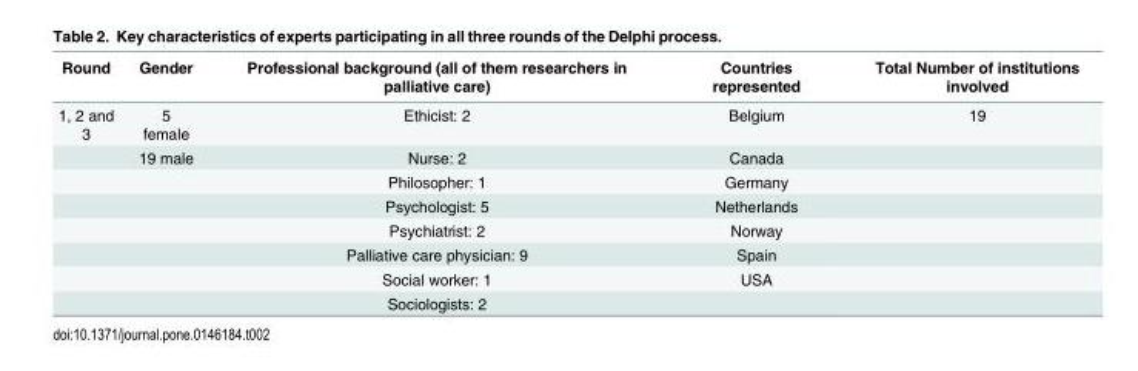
<table><thead><tr><td>Round</td><td>Gender</td><td>Professional background (all of them researchers in palliative care)</td><td>Countries represented</td><td>Total Number of institutions involved</td></tr></thead><tbody><tr><td rowspan="8">1, 2 and 3</td><td>5 female</td><td>Ethicist: 2</td><td>Belgium</td><td>19</td></tr><tr><td>19 male</td><td>Nurse: 2</td><td>Canada</td><td></td></tr><tr><td></td><td>Philosopher: 1</td><td>Germany</td><td></td></tr><tr><td></td><td>Psychologist: 5</td><td>Netherlands</td><td></td></tr><tr><td></td><td>Psychiatrist: 2</td><td>Norway</td><td></td></tr><tr><td></td><td>Palliative care physician: 9</td><td>Spain</td><td></td></tr><tr><td></td><td>Social worker: 1</td><td>USA</td><td></td></tr><tr><td></td><td>Sociologists: 2</td><td></td><td></td></tr></tbody></table>